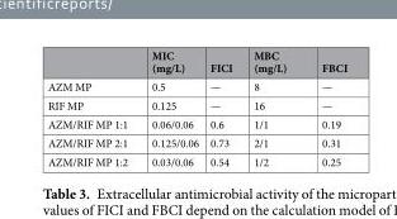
<table><thead><tr><td></td><td>MIC (mg/L)</td><td>FICI</td><td>MBC (mg/L)</td><td>FBCI</td></tr></thead><tbody><tr><td>AZM MP</td><td>0.5</td><td>—</td><td>8</td><td>—</td></tr><tr><td>RIF MP</td><td>0.125</td><td>—</td><td>16</td><td>—</td></tr><tr><td>AZM/RIF MP 1:1</td><td>0.06/0.06</td><td>0.6</td><td>1/1</td><td>0.19</td></tr><tr><td>AZM/RIF MP 2:1</td><td>0.125/0.06</td><td>0.73</td><td>2/1</td><td>0.31</td></tr><tr><td>AZM/RIF MP 1:2</td><td>0.03/0.06</td><td>0.54</td><td>1/2</td><td>0.25</td></tr></tbody></table>